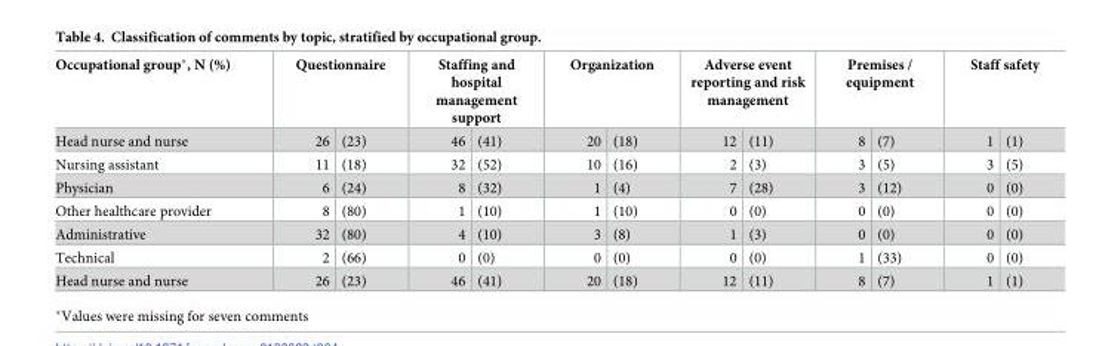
<table><thead><tr><td rowspan="2">Occupational group*, N (%) Head nurse and nurse</td><td colspan="2">Questionnaire</td><td colspan="2">Staffing and hospital management support</td><td colspan="2">Organization</td><td colspan="2">Adverse event reporting and risk management</td><td colspan="2">Premises / equipment</td><td colspan="2">Staff safety</td></tr><tr><td>26</td><td>(23)</td><td>46</td><td>(41)</td><td>20</td><td>(18)</td><td>12</td><td>(11)</td><td>8</td><td>(7)</td><td>1</td><td>(1)</td></tr></thead><tbody><tr><td>Nursing assistant</td><td>11</td><td>(18)</td><td>32</td><td>(52)</td><td>10</td><td>(16)</td><td>2</td><td>(3)</td><td>3</td><td>(5)</td><td>3</td><td>(5)</td></tr><tr><td>Physician</td><td>6</td><td>(24)</td><td>8</td><td>(32)</td><td>1</td><td>(4)</td><td>7</td><td>(28)</td><td>3</td><td>(12)</td><td>0</td><td>(0)</td></tr><tr><td>Other healthcare provider</td><td>8</td><td>(80)</td><td>1</td><td>(10)</td><td>1</td><td>(10)</td><td>0</td><td>(0)</td><td>0</td><td>(0)</td><td>0</td><td>(0)</td></tr><tr><td>Administrative</td><td>32</td><td>(80)</td><td>4</td><td>(10)</td><td>3</td><td>(8)</td><td>1</td><td>(3)</td><td>0</td><td>(0)</td><td>0</td><td>(0)</td></tr><tr><td>Technical</td><td>2</td><td>(66)</td><td>0</td><td>(0)</td><td>0</td><td>(0)</td><td>0</td><td>(0)</td><td>1</td><td>(33)</td><td>0</td><td>(0)</td></tr><tr><td>Head nurse and nurse</td><td>26</td><td>(23)</td><td>46</td><td>(41)</td><td>20</td><td>(18)</td><td>12</td><td>(11)</td><td>8</td><td>(7)</td><td>1</td><td>(1)</td></tr></tbody></table>